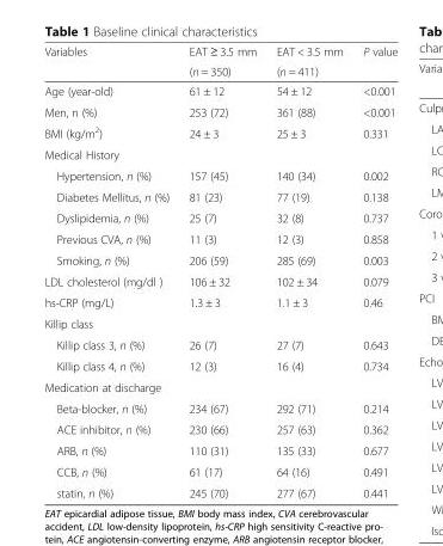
<table><thead><tr><td rowspan="2">Variables</td><td rowspan="2">EAT ≥ 3.5 mm (n = 350)</td><td rowspan="2">EAT &lt; 3.5 mm (n = 411)</td><td rowspan="2">P value</td></tr><tr></tr></thead><tbody><tr><td>Age (year-old)</td><td>61 ± 12</td><td>54 ± 12</td><td>&lt;0.001</td></tr><tr><td>Men, n (%)</td><td>253 (72)</td><td>361 (88)</td><td>&lt;0.001</td></tr><tr><td>BMI (kg/m<sup>2</sup>)</td><td>24 ± 3</td><td>25 ± 3</td><td>0.331</td></tr><tr><td colspan="4">Medical History</td></tr><tr><td>Hypertension, n (%)</td><td>157 (45)</td><td>140 (34)</td><td>0.002</td></tr><tr><td>Diabetes Mellitus, n (%)</td><td>81 (23)</td><td>77 (19)</td><td>0.138</td></tr><tr><td>Dyslipidemia, n (%)</td><td>25 (7)</td><td>32 (8)</td><td>0.737</td></tr><tr><td>Previous CVA, n (%)</td><td>11 (3)</td><td>12 (3)</td><td>0.858</td></tr><tr><td>Smoking, n (%)</td><td>206 (59)</td><td>285 (69)</td><td>0.003</td></tr><tr><td>LDL cholesterol (mg/dl )</td><td>106 ± 32</td><td>102 ± 34</td><td>0.079</td></tr><tr><td>hs-CRP (mg/L)</td><td>1.3 ± 3</td><td>1.1 ± 3</td><td>0.46</td></tr><tr><td colspan="4">Killip class</td></tr><tr><td>Killip class 3, n (%)</td><td>26 (7)</td><td>27 (7)</td><td>0.643</td></tr><tr><td>Killip class 4, n (%)</td><td>12 (3)</td><td>16 (4)</td><td>0.734</td></tr><tr><td colspan="4">Medication at discharge</td></tr><tr><td>Beta-blocker, n (%)</td><td>234 (67)</td><td>292 (71)</td><td>0.214</td></tr><tr><td>ACE inhibitor, n (%)</td><td>230 (66)</td><td>257 (63)</td><td>0.362</td></tr><tr><td>ARB, n (%)</td><td>110 (31)</td><td>135 (33)</td><td>0.677</td></tr><tr><td>CCB, n (%)</td><td>61 (17)</td><td>64 (16)</td><td>0.491</td></tr><tr><td>statin, n (%)</td><td>245 (70)</td><td>277 (67)</td><td>0.441</td></tr></tbody></table>